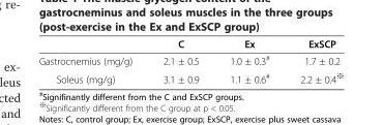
<table><thead><tr><td></td><td>C</td><td>Ex</td><td>ExSCP</td></tr></thead><tbody><tr><td>Gastrocnemius (mg/g)</td><td>2.1 ± 0.5</td><td>1.0 ± 0.3<sup>#</sup></td><td>1.7 ± 0.2</td></tr><tr><td>Soleus (mg/g)</td><td>3.1 ± 0.9</td><td>1.1 ± 0.6<sup>#</sup></td><td>2.2 ± 0.4<sup>※</sup></td></tr></tbody></table>